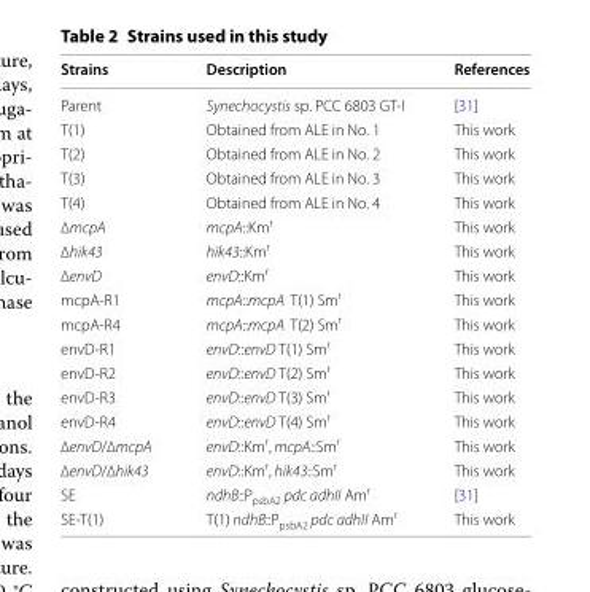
<table><thead><tr><td>Strains</td><td>Description</td><td>References</td></tr></thead><tbody><tr><td>Parent</td><td>Synechocystis sp. PCC 6803 GT-I</td><td>[31]</td></tr><tr><td>T(1)</td><td>Obtained from ALE in No. 1</td><td>This work</td></tr><tr><td>T(2)</td><td>Obtained from ALE in No. 2</td><td>This work</td></tr><tr><td>T(3)</td><td>Obtained from ALE in No. 3</td><td>This work</td></tr><tr><td>T(4)</td><td>Obtained from ALE in No. 4</td><td>This work</td></tr><tr><td>∆mcpA</td><td>mcpA::Km<sup>r</sup></td><td>This work</td></tr><tr><td>∆hik43</td><td>hik43::Km<sup>r</sup></td><td>This work</td></tr><tr><td>∆envD</td><td>envD::Km<sup>r</sup></td><td>This work</td></tr><tr><td>mcpA-R1</td><td>mcpA::mcpA T(1) Sm<sup>r</sup></td><td>This work</td></tr><tr><td>mcpA-R4</td><td>mcpA::mcpA T(2) Sm<sup>r</sup></td><td>This work</td></tr><tr><td>envD-R1</td><td>envD::envD T(1) Sm<sup>r</sup></td><td>This work</td></tr><tr><td>envD-R2</td><td>envD::envD T(2) Sm<sup>r</sup></td><td>This work</td></tr><tr><td>envD-R3</td><td>envD::envD T(3) Sm<sup>r</sup></td><td>This work</td></tr><tr><td>envD-R4</td><td>envD::envD T(4) Sm<sup>r</sup></td><td>This work</td></tr><tr><td>∆envD/∆mcpA</td><td>envD::Km<sup>r</sup>, mcpA::Sm<sup>r</sup></td><td>This work</td></tr><tr><td>∆envD/∆hik43</td><td>envD::Km<sup>r</sup>, hik43::Sm<sup>r</sup></td><td>This work</td></tr><tr><td>SE</td><td>ndhB::P<sub>psbA2</sub> pdc adhII Am<sup>r</sup></td><td>[31]</td></tr><tr><td>SE-T(1)</td><td>T(1) ndhB::P<sub>psbA2</sub> pdc adhII Am<sup>r</sup></td><td>This work</td></tr></tbody></table>